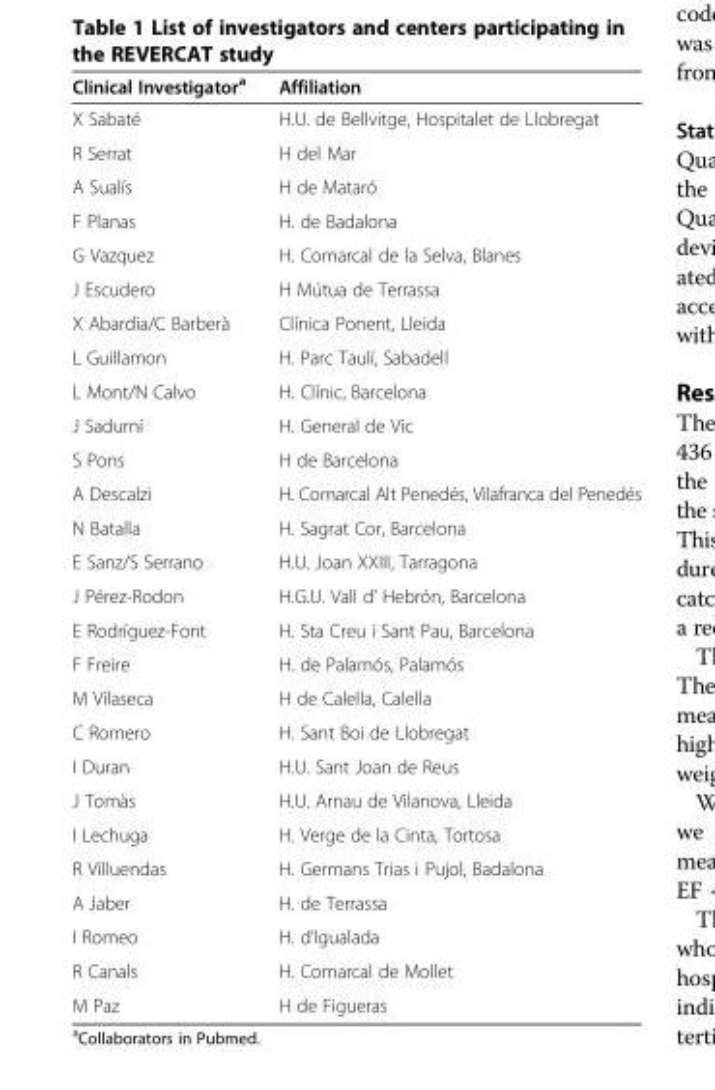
<table><thead><tr><td>Clinical Investigator<sup>a</sup></td><td>Affiliation</td></tr></thead><tbody><tr><td>X Sabaté</td><td>H.U. de Bellvitge, Hospitalet de Llobregat</td></tr><tr><td>R Serrat</td><td>H del Mar</td></tr><tr><td>A Sualís</td><td>H de Mataró</td></tr><tr><td>F Planas</td><td>H. de Badalona</td></tr><tr><td>G Vazquez</td><td>H. Comarcal de la Selva, Blanes</td></tr><tr><td>J Escudero</td><td>H Mútua de Terrassa</td></tr><tr><td>X Abardia/C Barberà</td><td>Clínica Ponent, Lleida</td></tr><tr><td>L Guillamon</td><td>H. Parc Taulí, Sabadell</td></tr><tr><td>L Mont/N Calvo</td><td>H. Clínic, Barcelona</td></tr><tr><td>J Sadurní</td><td>H. General de Vic</td></tr><tr><td>S Pons</td><td>H de Barcelona</td></tr><tr><td>A Descalzi</td><td>H. Comarcal Alt Penedés, Vilafranca del Penedés</td></tr><tr><td>N Batalla</td><td>H. Sagrat Cor, Barcelona</td></tr><tr><td>E Sanz/S Serrano</td><td>H.U. Joan XXIII, Tarragona</td></tr><tr><td>J Pérez-Rodon</td><td>H.G.U. Vall d’ Hebrón, Barcelona</td></tr><tr><td>E Rodríguez-Font</td><td>H. Sta Creu i Sant Pau, Barcelona</td></tr><tr><td>F Freire</td><td>H. de Palamós, Palamós</td></tr><tr><td>M Vilaseca</td><td>H de Calella, Calella</td></tr><tr><td>C Romero</td><td>H. Sant Boi de Llobregat</td></tr><tr><td>I Duran</td><td>H.U. Sant Joan de Reus</td></tr><tr><td>J Tomàs</td><td>H.U. Arnau de Vilanova, Lleida</td></tr><tr><td>I Lechuga</td><td>H. Verge de la Cinta, Tortosa</td></tr><tr><td>R Villuendas</td><td>H. Germans Trias i Pujol, Badalona</td></tr><tr><td>A Jaber</td><td>H. de Terrassa</td></tr><tr><td>I Romeo</td><td>H. d’Igualada</td></tr><tr><td>R Canals</td><td>H. Comarcal de Mollet</td></tr><tr><td>M Paz</td><td>H de Figueras</td></tr></tbody></table>